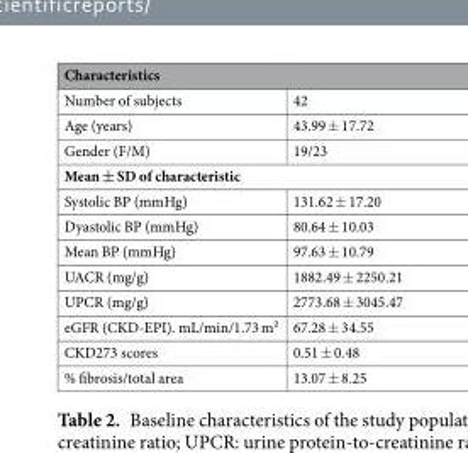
<table><thead><tr><td colspan="2">Characteristics</td></tr><tr><td>Number of subjects</td><td>42</td></tr></thead><tbody><tr><td>Age (years)</td><td>43.99 ± 17.72</td></tr><tr><td>Gender (F/M)</td><td>19/23</td></tr><tr><td colspan="2">Mean ± SD of characteristic</td></tr><tr><td>Systolic BP (mmHg)</td><td>131.62 ± 17.20</td></tr><tr><td>Dyastolic BP (mmHg)</td><td>80.64 ± 10.03</td></tr><tr><td>Mean BP (mmHg)</td><td>97.63 ± 10.79</td></tr><tr><td>UACR (mg/g)</td><td>1882.49 ± 2250.21</td></tr><tr><td>UPCR (mg/g)</td><td>2773.68 ± 3045.47</td></tr><tr><td>eGFR (CKD-EPI). mL/min/1.73 m²</td><td>67.28 ± 34.55</td></tr><tr><td>CKD273 scores</td><td>0.51 ± 0.48</td></tr><tr><td>% fibrosis/total area</td><td>13.07 ± 8.25</td></tr></tbody></table>